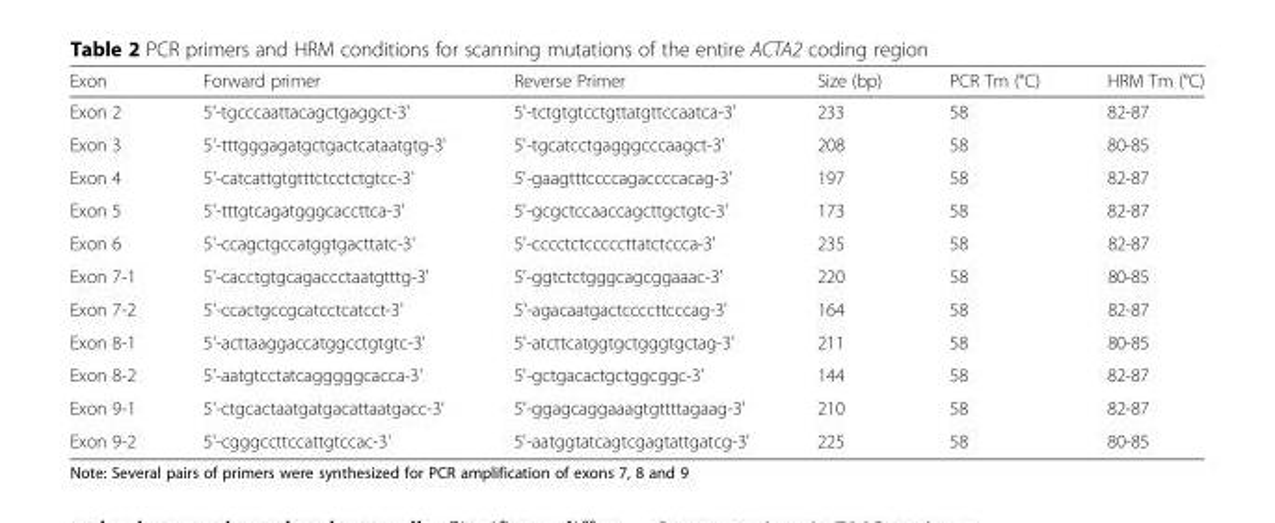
<table><thead><tr><td>Exon</td><td>Forward primer</td><td>Reverse Primer</td><td>Size (bp)</td><td>PCR Tm (°C)</td><td>HRM Tm (°C)</td></tr></thead><tbody><tr><td>Exon 2</td><td>5&#x27;-tgcccaattacagctgaggct-3&#x27;</td><td>5&#x27;-tctgtgtcctgttatgttccaatca-3&#x27;</td><td>233</td><td>58</td><td>82-87</td></tr><tr><td>Exon 3</td><td>5&#x27;-tttgggagatgctgactcataatgtg-3&#x27;</td><td>5&#x27;-tgcatcctgagggcccaagct-3&#x27;</td><td>208</td><td>58</td><td>80-85</td></tr><tr><td>Exon 4</td><td>5&#x27;-catcattgtgtttctcctctgtcc-3&#x27;</td><td>5&#x27;-gaagtttccccagaccccacag-3&#x27;</td><td>197</td><td>58</td><td>82-87</td></tr><tr><td>Exon 5</td><td>5&#x27;-tttgtcagatgggcaccttca-3&#x27;</td><td>5&#x27;-gcgctccaaccagcttgctgtc-3&#x27;</td><td>173</td><td>58</td><td>82-87</td></tr><tr><td>Exon 6</td><td>5&#x27;-ccagctgccatggtgacttatc-3&#x27;</td><td>5&#x27;-cccctctcccccttatctccca-3&#x27;</td><td>235</td><td>58</td><td>82-87</td></tr><tr><td>Exon 7-1</td><td>5&#x27;-cacctgtgcagaccctaatgtttg-3&#x27;</td><td>5&#x27;-ggtctctgggcagcggaaac-3&#x27;</td><td>220</td><td>58</td><td>80-85</td></tr><tr><td>Exon 7-2</td><td>5&#x27;-ccactgccgcatcctcatcct-3&#x27;</td><td>5&#x27;-agacaatgactccccttcccag-3&#x27;</td><td>164</td><td>58</td><td>82-87</td></tr><tr><td>Exon 8-1</td><td>5&#x27;-acttaaggaccatggcctgtgtc-3&#x27;</td><td>5&#x27;-atcttcatggtgctgggtgctag-3&#x27;</td><td>211</td><td>58</td><td>80-85</td></tr><tr><td>Exon 8-2</td><td>5&#x27;-aatgtcctatcagggggcacca-3&#x27;</td><td>5&#x27;-gctgacactgctggcggc-3&#x27;</td><td>144</td><td>58</td><td>82-87</td></tr><tr><td>Exon 9-1</td><td>5&#x27;-ctgcactaatgatgacattaatgacc-3&#x27;</td><td>5&#x27;-ggagcaggaaagtgttttagaag-3&#x27;</td><td>210</td><td>58</td><td>82-87</td></tr><tr><td>Exon 9-2</td><td>5&#x27;-cgggccttccattgtccac-3&#x27;</td><td>5&#x27;-aatggtatcagtcgagtattgatcg-3&#x27;</td><td>225</td><td>58</td><td>80-85</td></tr></tbody></table>